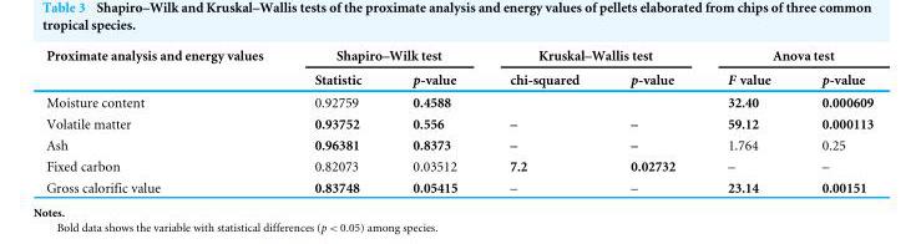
<table><thead><tr><td rowspan="2">Proximate analysis and energy values</td><td colspan="2">Shapiro–Wilk test</td><td colspan="2">Kruskal–Wallis test</td><td colspan="2">Anova test</td></tr><tr><td>Statistic</td><td>p-value</td><td>chi-squared</td><td>p-value</td><td>F value</td><td>p-value</td></tr></thead><tbody><tr><td>Moisture content</td><td>0.92759</td><td>0.4588</td><td></td><td></td><td>32.40</td><td>0.000609</td></tr><tr><td>Volatile matter</td><td>0.93752</td><td>0.556</td><td>–</td><td>–</td><td>59.12</td><td>0.000113</td></tr><tr><td>Ash</td><td>0.96381</td><td>0.8373</td><td>–</td><td>–</td><td>1.764</td><td>0.25</td></tr><tr><td>Fixed carbon</td><td>0.82073</td><td>0.03512</td><td>7.2</td><td>0.02732</td><td>–</td><td>–</td></tr><tr><td>Gross calorific value</td><td>0.83748</td><td>0.05415</td><td>–</td><td>–</td><td>23.14</td><td>0.00151</td></tr></tbody></table>